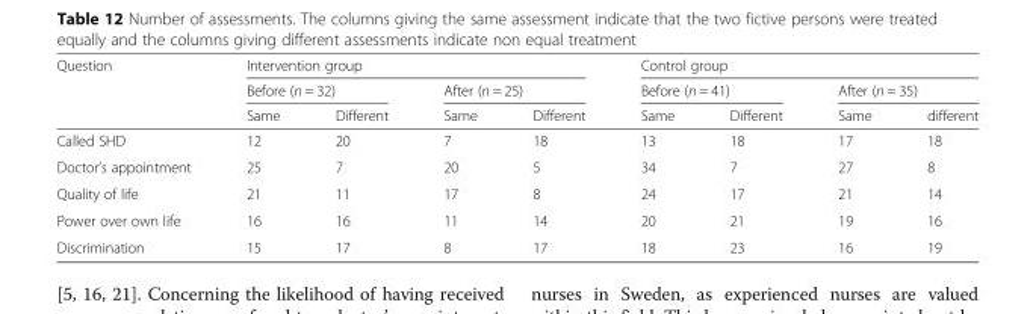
<table><thead><tr><td rowspan="3">Question</td><td colspan="4">Intervention group</td><td colspan="4">Control group</td></tr><tr><td colspan="2">Before (n = 32)</td><td colspan="2">After (n = 25)</td><td colspan="2">Before (n = 41)</td><td colspan="2">After (n = 35)</td></tr><tr><td>Same</td><td>Different</td><td>Same</td><td>Different</td><td>Same</td><td>Different</td><td>Same</td><td>different</td></tr></thead><tbody><tr><td>Called SHD</td><td>12</td><td>20</td><td>7</td><td>18</td><td>13</td><td>18</td><td>17</td><td>18</td></tr><tr><td>Doctor’s appointment</td><td>25</td><td>7</td><td>20</td><td>5</td><td>34</td><td>7</td><td>27</td><td>8</td></tr><tr><td>Quality of life</td><td>21</td><td>11</td><td>17</td><td>8</td><td>24</td><td>17</td><td>21</td><td>14</td></tr><tr><td>Power over own life</td><td>16</td><td>16</td><td>11</td><td>14</td><td>20</td><td>21</td><td>19</td><td>16</td></tr><tr><td>Discrimination</td><td>15</td><td>17</td><td>8</td><td>17</td><td>18</td><td>23</td><td>16</td><td>19</td></tr></tbody></table>